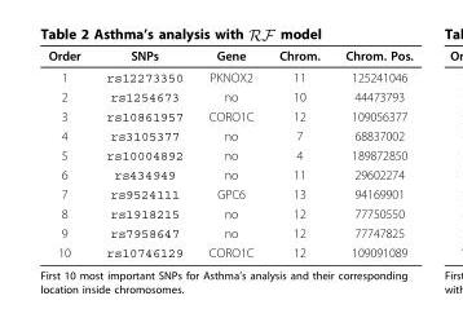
<table><thead><tr><td>Order</td><td>SNPs</td><td>Gene</td><td>Chrom.</td><td>Chrom. Pos.</td></tr></thead><tbody><tr><td>1</td><td>rs12273350</td><td>PKNOX2</td><td>11</td><td>125241046</td></tr><tr><td>2</td><td>rs1254673</td><td>no</td><td>10</td><td>44473793</td></tr><tr><td>3</td><td>rs10861957</td><td>CORO1C</td><td>12</td><td>109056377</td></tr><tr><td>4</td><td>rs3105377</td><td>no</td><td>7</td><td>68837002</td></tr><tr><td>5</td><td>rs10004892</td><td>no</td><td>4</td><td>189872850</td></tr><tr><td>6</td><td>rs434949</td><td>no</td><td>11</td><td>29602274</td></tr><tr><td>7</td><td>rs9524111</td><td>GPC6</td><td>13</td><td>94169901</td></tr><tr><td>8</td><td>rs1918215</td><td>no</td><td>12</td><td>77750550</td></tr><tr><td>9</td><td>rs7958647</td><td>no</td><td>12</td><td>77747825</td></tr><tr><td>10</td><td>rs10746129</td><td>CORO1C</td><td>12</td><td>109091089</td></tr></tbody></table>